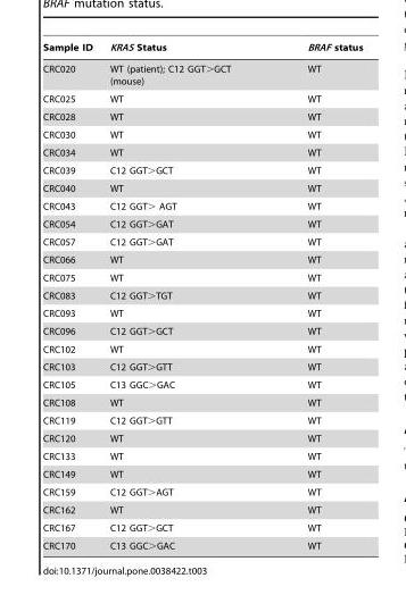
<table><thead><tr><td>Sample ID</td><td>KRAS Status</td><td>BRAF status</td></tr></thead><tbody><tr><td>CRC020</td><td>WT (patient); C12 GGT&gt;GCT (mouse)</td><td>WT</td></tr><tr><td>CRC025</td><td>WT</td><td>WT</td></tr><tr><td>CRC028</td><td>WT</td><td>WT</td></tr><tr><td>CRC030</td><td>WT</td><td>WT</td></tr><tr><td>CRC034</td><td>WT</td><td>WT</td></tr><tr><td>CRC039</td><td>C12 GGT&gt;GCT</td><td>WT</td></tr><tr><td>CRC040</td><td>WT</td><td>WT</td></tr><tr><td>CRC043</td><td>C12 GGT&gt; AGT</td><td>WT</td></tr><tr><td>CRC054</td><td>C12 GGT&gt;GAT</td><td>WT</td></tr><tr><td>CRC057</td><td>C12 GGT&gt;GAT</td><td>WT</td></tr><tr><td>CRC066</td><td>WT</td><td>WT</td></tr><tr><td>CRC075</td><td>WT</td><td>WT</td></tr><tr><td>CRC083</td><td>C12 GGT&gt;TGT</td><td>WT</td></tr><tr><td>CRC093</td><td>WT</td><td>WT</td></tr><tr><td>CRC096</td><td>C12 GGT&gt;GCT</td><td>WT</td></tr><tr><td>CRC102</td><td>WT</td><td>WT</td></tr><tr><td>CRC103</td><td>C12 GGT&gt;GTT</td><td>WT</td></tr><tr><td>CRC105</td><td>C13 GGC&gt;GAC</td><td>WT</td></tr><tr><td>CRC108</td><td>WT</td><td>WT</td></tr><tr><td>CRC119</td><td>C12 GGT&gt;GTT</td><td>WT</td></tr><tr><td>CRC120</td><td>WT</td><td>WT</td></tr><tr><td>CRC133</td><td>WT</td><td>WT</td></tr><tr><td>CRC149</td><td>WT</td><td>WT</td></tr><tr><td>CRC159</td><td>C12 GGT&gt;AGT</td><td>WT</td></tr><tr><td>CRC162</td><td>WT</td><td>WT</td></tr><tr><td>CRC167</td><td>C12 GGT&gt;GCT</td><td>WT</td></tr><tr><td>CRC170</td><td>C13 GGC&gt;GAC</td><td>WT</td></tr></tbody></table>